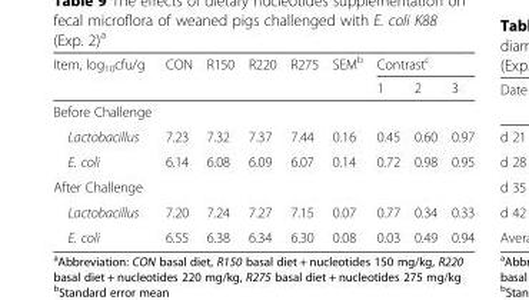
<table><thead><tr><td rowspan="2">Item, log<sub>10</sub>cfu/g</td><td rowspan="2">CON</td><td rowspan="2">R150</td><td rowspan="2">R220</td><td rowspan="2">R275</td><td rowspan="2">SEM<sup>b</sup></td><td colspan="3">Contrast<sup>c</sup></td></tr><tr><td>1</td><td>2</td><td>3</td></tr></thead><tbody><tr><td colspan="9">Before Challenge</td></tr><tr><td>Lactobacillus</td><td>7.23</td><td>7.32</td><td>7.37</td><td>7.44</td><td>0.16</td><td>0.45</td><td>0.60</td><td>0.97</td></tr><tr><td>E. coli</td><td>6.14</td><td>6.08</td><td>6.09</td><td>6.07</td><td>0.14</td><td>0.72</td><td>0.98</td><td>0.95</td></tr><tr><td colspan="9">After Challenge</td></tr><tr><td>Lactobacillus</td><td>7.20</td><td>7.24</td><td>7.27</td><td>7.15</td><td>0.07</td><td>0.77</td><td>0.34</td><td>0.33</td></tr><tr><td>E. coli</td><td>6.55</td><td>6.38</td><td>6.34</td><td>6.30</td><td>0.08</td><td>0.03</td><td>0.49</td><td>0.94</td></tr></tbody></table>